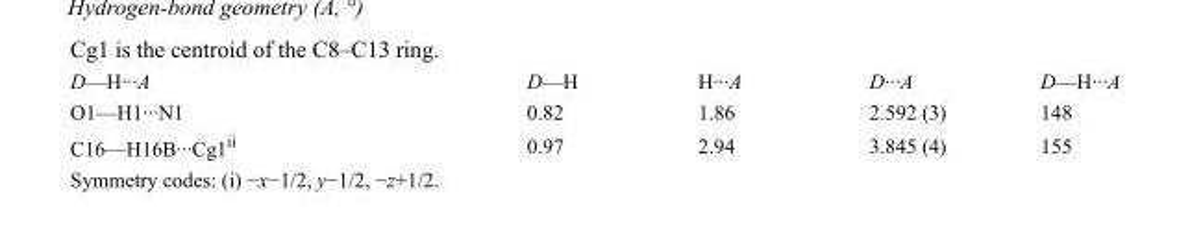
<table><tbody><tr><td>D—H···A</td><td>D—H</td><td>H···A</td><td>D···A</td><td>D—H···A</td></tr><tr><td>O1—H1···N1</td><td>0.82</td><td>1.86</td><td>2.592 (3)</td><td>148</td></tr><tr><td>C16—H16B···Cg1<sup>ii</sup></td><td>0.97</td><td>2.94</td><td>3.845 (4)</td><td>155</td></tr></tbody></table>